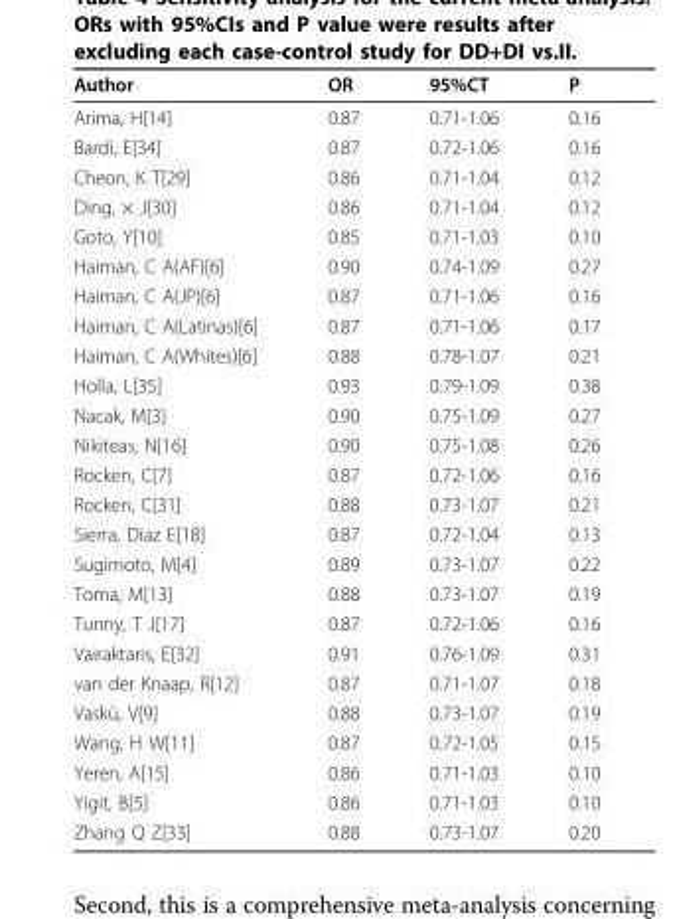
<table><thead><tr><td>Author</td><td>OR</td><td>95%CT</td><td>P</td></tr></thead><tbody><tr><td>Arima, H[14]</td><td>0.87</td><td>0.71-1.06</td><td>0.16</td></tr><tr><td>Bardi, E[34]</td><td>0.87</td><td>0.72-1.06</td><td>0.16</td></tr><tr><td>Cheon, K T[29]</td><td>0.86</td><td>0.71-1.04</td><td>0.12</td></tr><tr><td>Ding, × J[30]</td><td>0.86</td><td>0.71-1.04</td><td>0.12</td></tr><tr><td>Goto, Y[10]</td><td>0.85</td><td>0.71-1.03</td><td>0.10</td></tr><tr><td>Haiman, C A(AF)[6]</td><td>0.90</td><td>0.74-1.09</td><td>0.27</td></tr><tr><td>Haiman, C A(JP)[6]</td><td>0.87</td><td>0.71-1.06</td><td>0.16</td></tr><tr><td>Haiman, C A(Latinas)[6]</td><td>0.87</td><td>0.71-1.06</td><td>0.17</td></tr><tr><td>Haiman, C A(Whites)[6]</td><td>0.88</td><td>0.78-1.07</td><td>0.21</td></tr><tr><td>Holla, L[35]</td><td>0.93</td><td>0.79-1.09</td><td>0.38</td></tr><tr><td>Nacak, M[3]</td><td>0.90</td><td>0.75-1.09</td><td>0.27</td></tr><tr><td>Nikiteas, N[16]</td><td>0.90</td><td>0.75-1.08</td><td>0.26</td></tr><tr><td>Rocken, C[7]</td><td>0.87</td><td>0.72-1.06</td><td>0.16</td></tr><tr><td>Rocken, C[31]</td><td>0.88</td><td>0.73-1.07</td><td>0.21</td></tr><tr><td>Sierra, Diaz E[18]</td><td>0.87</td><td>0.72-1.04</td><td>0.13</td></tr><tr><td>Sugimoto, M[4]</td><td>0.89</td><td>0.73-1.07</td><td>0.22</td></tr><tr><td>Toma, M[13]</td><td>0.88</td><td>0.73-1.07</td><td>0.19</td></tr><tr><td>Tunny, T J[17]</td><td>0.87</td><td>0.72-1.06</td><td>0.16</td></tr><tr><td>Vairaktaris, E[32]</td><td>0.91</td><td>0.76-1.09</td><td>0.31</td></tr><tr><td>van der Knaap, R[12]</td><td>0.87</td><td>0.71-1.07</td><td>0.18</td></tr><tr><td>Vaskù, V[9]</td><td>0.88</td><td>0.73-1.07</td><td>0.19</td></tr><tr><td>Wang, H W[11]</td><td>0.87</td><td>0.72-1.05</td><td>0.15</td></tr><tr><td>Yeren, A[15]</td><td>0.86</td><td>0.71-1.03</td><td>0.10</td></tr><tr><td>Yigit, B[5]</td><td>0.86</td><td>0.71-1.03</td><td>0.10</td></tr><tr><td>Zhang Q Z[33]</td><td>0.88</td><td>0.73-1.07</td><td>0.20</td></tr></tbody></table>